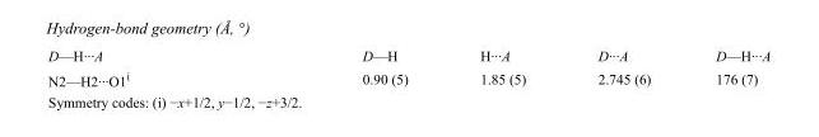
<table><tbody><tr><td>D—H···A</td><td>D—H</td><td>H···A</td><td>D···A</td><td>D—H···A</td></tr><tr><td>N2—H2···O1<sup>i</sup></td><td>0.90 (5)</td><td>1.85 (5)</td><td>2.745 (6)</td><td>176 (7)</td></tr></tbody></table>